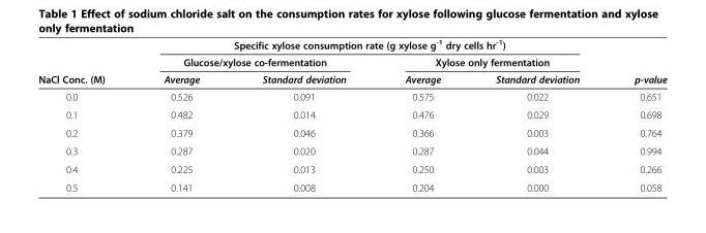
<table><thead><tr><td rowspan="3">NaCl Conc. (M)</td><td colspan="4">Specific xylose consumption rate (g xylose g<sup>-1</sup> dry cells hr<sup>-1</sup>)</td><td rowspan="3">p-value</td></tr><tr><td colspan="2">Glucose/xylose co-fermentation</td><td colspan="2">Xylose only fermentation</td></tr><tr><td>Average</td><td>Standard deviation</td><td>Average</td><td>Standard deviation</td></tr></thead><tbody><tr><td>0.0</td><td>0.526</td><td>0.091</td><td>0.575</td><td>0.022</td><td>0.651</td></tr><tr><td>0.1</td><td>0.482</td><td>0.014</td><td>0.476</td><td>0.029</td><td>0.698</td></tr><tr><td>0.2</td><td>0.379</td><td>0.046</td><td>0.366</td><td>0.003</td><td>0.764</td></tr><tr><td>0.3</td><td>0.287</td><td>0.020</td><td>0.287</td><td>0.044</td><td>0.994</td></tr><tr><td>0.4</td><td>0.225</td><td>0.013</td><td>0.250</td><td>0.003</td><td>0.266</td></tr><tr><td>0.5</td><td>0.141</td><td>0.008</td><td>0.204</td><td>0.000</td><td>0.058</td></tr></tbody></table>